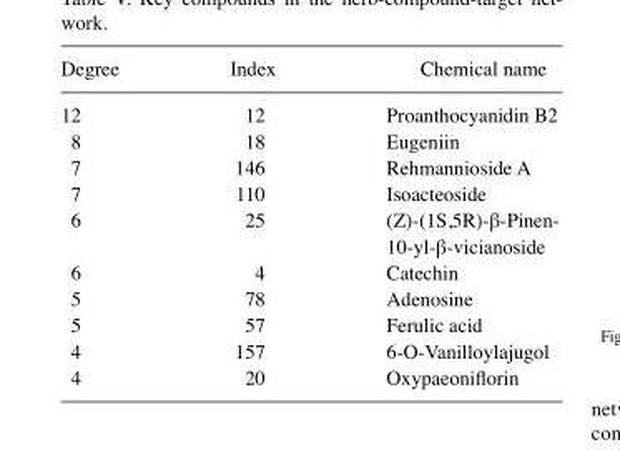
<table><thead><tr><td>Degree</td><td>Index</td><td>Chemical name</td></tr></thead><tbody><tr><td>12</td><td>12</td><td>Proanthocyanidin B2</td></tr><tr><td>8</td><td>18</td><td>Eugeniin</td></tr><tr><td>7</td><td>146</td><td>Rehmannioside A</td></tr><tr><td>7</td><td>110</td><td>Isoacteoside</td></tr><tr><td>6</td><td>25</td><td>(Z)-(1S,5R)-β-Pinen- 10-yl-β-vicianoside</td></tr><tr><td>6</td><td>4</td><td>Catechin</td></tr><tr><td>5</td><td>78</td><td>Adenosine</td></tr><tr><td>5</td><td>57</td><td>Ferulic acid</td></tr><tr><td>4</td><td>157</td><td>6-O-Vanilloylajugol</td></tr><tr><td>4</td><td>20</td><td>Oxypaeoniflorin</td></tr></tbody></table>